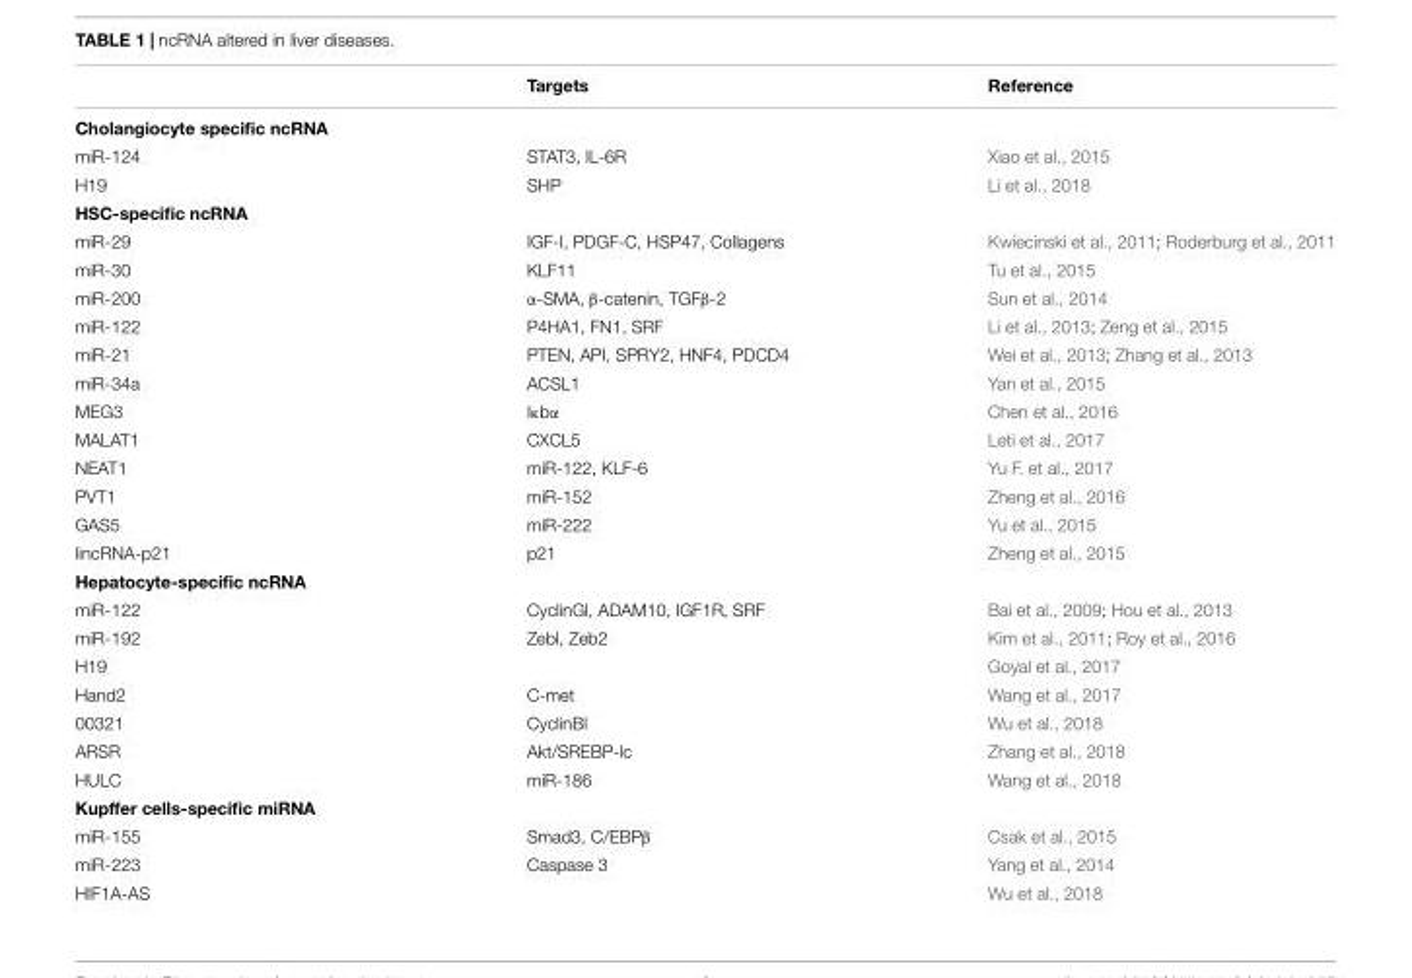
<table><thead><tr><td></td><td>Targets</td><td>Reference</td></tr></thead><tbody><tr><td colspan="3">Cholangiocyte specific ncRNA</td></tr><tr><td>miR-124</td><td>STAT3, IL-6R</td><td>Xiao et al., 2015</td></tr><tr><td>H19</td><td>SHP</td><td>Li et al., 2018</td></tr><tr><td colspan="3">HSC-specific ncRNA</td></tr><tr><td>miR-29</td><td>IGF-I, PDGF-C, HSP47, Collagens</td><td>Kwiecinski et al., 2011; Roderburg et al., 2011</td></tr><tr><td>miR-30</td><td>KLF11</td><td>Tu et al., 2015</td></tr><tr><td>miR-200</td><td>α-SMA, β-catenin, TGFβ-2</td><td>Sun et al., 2014</td></tr><tr><td>miR-122</td><td>P4HA1, FN1, SRF</td><td>Li et al., 2013; Zeng et al., 2015</td></tr><tr><td>miR-21</td><td>PTEN, API, SPRY2, HNF4, PDCD4</td><td>Wei et al., 2013; Zhang et al., 2013</td></tr><tr><td>miR-34a</td><td>ACSL1</td><td>Yan et al., 2015</td></tr><tr><td>MEG3</td><td>Iκbα</td><td>Chen et al., 2016</td></tr><tr><td>MALAT1</td><td>CXCL5</td><td>Leti et al., 2017</td></tr><tr><td>NEAT1</td><td>miR-122, KLF-6</td><td>Yu F. et al., 2017</td></tr><tr><td>PVT1</td><td>miR-152</td><td>Zheng et al., 2016</td></tr><tr><td>GAS5</td><td>miR-222</td><td>Yu et al., 2015</td></tr><tr><td>lincRNA-p21</td><td>p21</td><td>Zheng et al., 2015</td></tr><tr><td colspan="3">Hepatocyte-specific ncRNA</td></tr><tr><td>miR-122</td><td>CyclinGl, ADAM10, IGF1R, SRF</td><td>Bai et al., 2009; Hou et al., 2013</td></tr><tr><td>miR-192</td><td>Zebl, Zeb2</td><td>Kim et al., 2011; Roy et al., 2016</td></tr><tr><td>H19</td><td></td><td>Goyal et al., 2017</td></tr><tr><td>Hand2</td><td>C-met</td><td>Wang et al., 2017</td></tr><tr><td>00321</td><td>CyclinBl</td><td>Wu et al., 2018</td></tr><tr><td>ARSR</td><td>Akt/SREBP-lc</td><td>Zhang et al., 2018</td></tr><tr><td>HULC</td><td>miR-186</td><td>Wang et al., 2018</td></tr><tr><td colspan="3">Kupffer cells-specific miRNA</td></tr><tr><td>miR-155</td><td>Smad3, C/EBPβ</td><td>Csak et al., 2015</td></tr><tr><td>miR-223</td><td>Caspase 3</td><td>Yang et al., 2014</td></tr><tr><td>HIF1A-AS</td><td></td><td>Wu et al., 2018</td></tr></tbody></table>